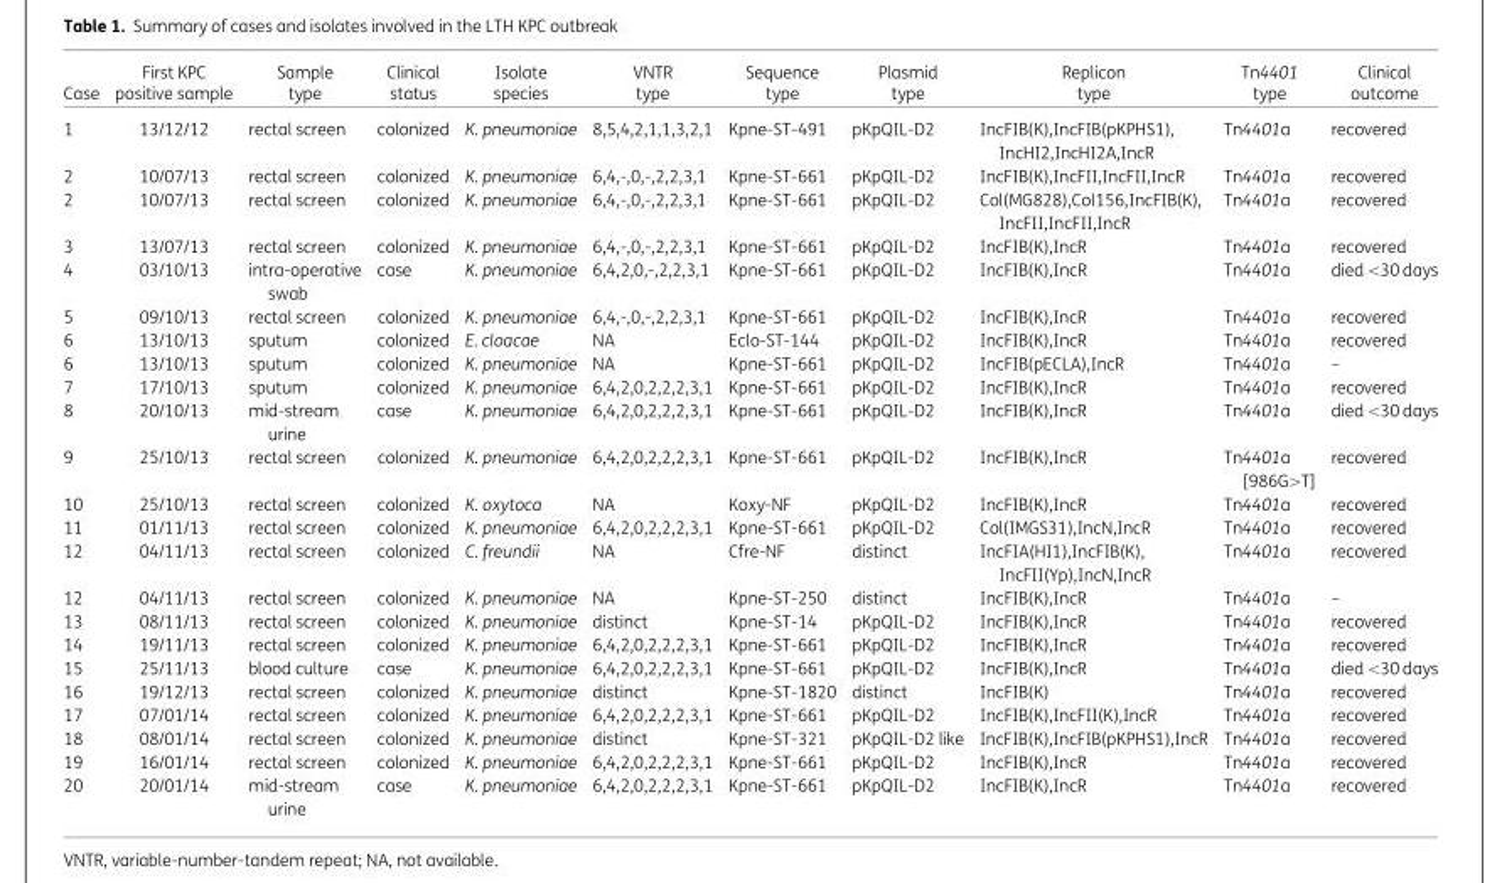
<table><thead><tr><td>Case</td><td>First KPC positive sample</td><td>Sample type</td><td>Clinical status</td><td>Isolate species</td><td>VNTR type</td><td>Sequence type</td><td>Plasmid type</td><td>Replicon type</td><td>Tn4401 type</td><td>Clinical outcome</td></tr></thead><tbody><tr><td>1</td><td>13/12/12</td><td>rectal screen</td><td>colonized</td><td>K. pneumoniae</td><td>8,5,4,2,1,1,3,2,1</td><td>Kpne-ST-491</td><td>pKpQIL-D2</td><td>IncFIB(K),IncFIB(pKPHS1), IncHI2,IncHI2A,IncR</td><td>Tn4401a</td><td>recovered</td></tr><tr><td>2</td><td>10/07/13</td><td>rectal screen</td><td>colonized</td><td>K. pneumoniae</td><td>6,4,-,0,-,2,2,3,1</td><td>Kpne-ST-661</td><td>pKpQIL-D2</td><td>IncFIB(K),IncFII,IncFII,IncR</td><td>Tn4401a</td><td>recovered</td></tr><tr><td>2</td><td>10/07/13</td><td>rectal screen</td><td>colonized</td><td>K. pneumoniae</td><td>6,4,-,0,-,2,2,3,1</td><td>Kpne-ST-661</td><td>pKpQIL-D2</td><td>Col(MG828),Col156,IncFIB(K), IncFII,IncFII,IncR</td><td>Tn4401a</td><td>recovered</td></tr><tr><td>3</td><td>13/07/13</td><td>rectal screen</td><td>colonized</td><td>K. pneumoniae</td><td>6,4,-,0,-,2,2,3,1</td><td>Kpne-ST-661</td><td>pKpQIL-D2</td><td>IncFIB(K),IncR</td><td>Tn4401a</td><td>recovered</td></tr><tr><td>4</td><td>03/10/13</td><td>intra-operative swab</td><td>case</td><td>K. pneumoniae</td><td>6,4,2,0,-,2,2,3,1</td><td>Kpne-ST-661</td><td>pKpQIL-D2</td><td>IncFIB(K),IncR</td><td>Tn4401a</td><td>died &lt;30 days</td></tr><tr><td>5</td><td>09/10/13</td><td>rectal screen</td><td>colonized</td><td>K. pneumoniae</td><td>6,4,-,0,-,2,2,3,1</td><td>Kpne-ST-661</td><td>pKpQIL-D2</td><td>IncFIB(K),IncR</td><td>Tn4401a</td><td>recovered</td></tr><tr><td>6</td><td>13/10/13</td><td>sputum</td><td>colonized</td><td>E. cloacae</td><td>NA</td><td>Eclo-ST-144</td><td>pKpQIL-D2</td><td>IncFIB(K),IncR</td><td>Tn4401a</td><td>recovered</td></tr><tr><td>6</td><td>13/10/13</td><td>sputum</td><td>colonized</td><td>K. pneumoniae</td><td>NA</td><td>Kpne-ST-661</td><td>pKpQIL-D2</td><td>IncFIB(pECLA),IncR</td><td>Tn4401a</td><td>–</td></tr><tr><td>7</td><td>17/10/13</td><td>sputum</td><td>colonized</td><td>K. pneumoniae</td><td>6,4,2,0,2,2,2,3,1</td><td>Kpne-ST-661</td><td>pKpQIL-D2</td><td>IncFIB(K),IncR</td><td>Tn4401a</td><td>recovered</td></tr><tr><td>8</td><td>20/10/13</td><td>mid-stream urine</td><td>case</td><td>K. pneumoniae</td><td>6,4,2,0,2,2,2,3,1</td><td>Kpne-ST-661</td><td>pKpQIL-D2</td><td>IncFIB(K),IncR</td><td>Tn4401a</td><td>died &lt;30 days</td></tr><tr><td>9</td><td>25/10/13</td><td>rectal screen</td><td>colonized</td><td>K. pneumoniae</td><td>6,4,2,0,2,2,2,3,1</td><td>Kpne-ST-661</td><td>pKpQIL-D2</td><td>IncFIB(K),IncR</td><td>Tn4401a [986G&gt;T]</td><td>recovered</td></tr><tr><td>10</td><td>25/10/13</td><td>rectal screen</td><td>colonized</td><td>K. oxytoca</td><td>NA</td><td>Koxy-NF</td><td>pKpQIL-D2</td><td>IncFIB(K),IncR</td><td>Tn4401a</td><td>recovered</td></tr><tr><td>11</td><td>01/11/13</td><td>rectal screen</td><td>colonized</td><td>K. pneumoniae</td><td>6,4,2,0,2,2,2,3,1</td><td>Kpne-ST-661</td><td>pKpQIL-D2</td><td>Col(IMGS31),IncN,IncR</td><td>Tn4401a</td><td>recovered</td></tr><tr><td>12</td><td>04/11/13</td><td>rectal screen</td><td>colonized</td><td>C. freundii</td><td>NA</td><td>Cfre-NF</td><td>distinct</td><td>IncFIA(HI1),IncFIB(K), IncFII(Yp),IncN,IncR</td><td>Tn4401a</td><td>recovered</td></tr><tr><td>12</td><td>04/11/13</td><td>rectal screen</td><td>colonized</td><td>K. pneumoniae</td><td>NA</td><td>Kpne-ST-250</td><td>distinct</td><td>IncFIB(K),IncR</td><td>Tn4401a</td><td>–</td></tr><tr><td>13</td><td>08/11/13</td><td>rectal screen</td><td>colonized</td><td>K. pneumoniae</td><td>distinct</td><td>Kpne-ST-14</td><td>pKpQIL-D2</td><td>IncFIB(K),IncR</td><td>Tn4401a</td><td>recovered</td></tr><tr><td>14</td><td>19/11/13</td><td>rectal screen</td><td>colonized</td><td>K. pneumoniae</td><td>6,4,2,0,2,2,2,3,1</td><td>Kpne-ST-661</td><td>pKpQIL-D2</td><td>IncFIB(K),IncR</td><td>Tn4401a</td><td>recovered</td></tr><tr><td>15</td><td>25/11/13</td><td>blood culture</td><td>case</td><td>K. pneumoniae</td><td>6,4,2,0,2,2,2,3,1</td><td>Kpne-ST-661</td><td>pKpQIL-D2</td><td>IncFIB(K),IncR</td><td>Tn4401a</td><td>died &lt;30 days</td></tr><tr><td>16</td><td>19/12/13</td><td>rectal screen</td><td>colonized</td><td>K. pneumoniae</td><td>distinct</td><td>Kpne-ST-1820</td><td>distinct</td><td>IncFIB(K)</td><td>Tn4401a</td><td>recovered</td></tr><tr><td>17</td><td>07/01/14</td><td>rectal screen</td><td>colonized</td><td>K. pneumoniae</td><td>6,4,2,0,2,2,2,3,1</td><td>Kpne-ST-661</td><td>pKpQIL-D2</td><td>IncFIB(K),IncFII(K),IncR</td><td>Tn4401a</td><td>recovered</td></tr><tr><td>18</td><td>08/01/14</td><td>rectal screen</td><td>colonized</td><td>K. pneumoniae</td><td>distinct</td><td>Kpne-ST-321</td><td>pKpQIL-D2 like</td><td>IncFIB(K),IncFIB(pKPHS1),IncR</td><td>Tn4401a</td><td>recovered</td></tr><tr><td>19</td><td>16/01/14</td><td>rectal screen</td><td>colonized</td><td>K. pneumoniae</td><td>6,4,2,0,2,2,2,3,1</td><td>Kpne-ST-661</td><td>pKpQIL-D2</td><td>IncFIB(K),IncR</td><td>Tn4401a</td><td>recovered</td></tr><tr><td>20</td><td>20/01/14</td><td>mid-stream urine</td><td>case</td><td>K. pneumoniae</td><td>6,4,2,0,2,2,2,3,1</td><td>Kpne-ST-661</td><td>pKpQIL-D2</td><td>IncFIB(K),IncR</td><td>Tn4401a</td><td>recovered</td></tr></tbody></table>